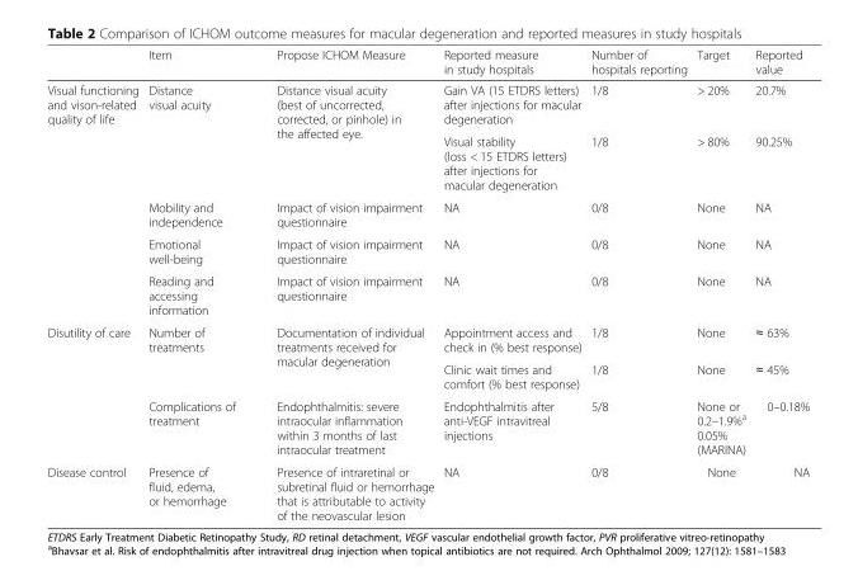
<table><thead><tr><td></td><td>Item</td><td>Propose ICHOM Measure</td><td>Reported measure in study hospitals</td><td>Number of hospitals reporting</td><td>Target</td><td>Reported value</td></tr></thead><tbody><tr><td rowspan="5">Visual functioning and vison-related quality of life</td><td rowspan="2">Distance visual acuity</td><td rowspan="2">Distance visual acuity (best of uncorrected, corrected, or pinhole) in the affected eye.</td><td>Gain VA (15 ETDRS letters) after injections for macular degeneration</td><td>1/8</td><td>&gt; 20%</td><td>20.7%</td></tr><tr><td>Visual stability (loss &lt; 15 ETDRS letters) after injections for macular degeneration</td><td>1/8</td><td>&gt; 80%</td><td>90.25%</td></tr><tr><td>Mobility and independence</td><td>Impact of vision impairment questionnaire</td><td>NA</td><td>0/8</td><td>None</td><td>NA</td></tr><tr><td>Emotional well-being</td><td>Impact of vision impairment questionnaire</td><td>NA</td><td>0/8</td><td>None</td><td>NA</td></tr><tr><td>Reading and accessing information</td><td>Impact of vision impairment questionnaire</td><td>NA</td><td>0/8</td><td>None</td><td>NA</td></tr><tr><td rowspan="3">Disutility of care</td><td rowspan="2">Number of treatments</td><td rowspan="2">Documentation of individual treatments received for macular degeneration</td><td>Appointment access and check in (% best response)</td><td>1/8</td><td>None</td><td>≈ 63%</td></tr><tr><td>Clinic wait times and comfort (% best response)</td><td>1/8</td><td>None</td><td>≈ 45%</td></tr><tr><td>Complications of treatment</td><td>Endophthalmitis: severe intraocular inflammation within 3 months of last intraocular treatment</td><td>Endophthalmitis after anti-VEGF intravitreal injections</td><td>5/8</td><td>None or 0.2–1.9%<sup>a</sup> 0.05% (MARINA)</td><td>0–0.18%</td></tr><tr><td>Disease control</td><td>Presence of fluid, edema, or hemorrhage</td><td>Presence of intraretinal or subretinal fluid or hemorrhage that is attributable to activity of the neovascular lesion</td><td>NA</td><td>0/8</td><td>None</td><td>NA</td></tr></tbody></table>